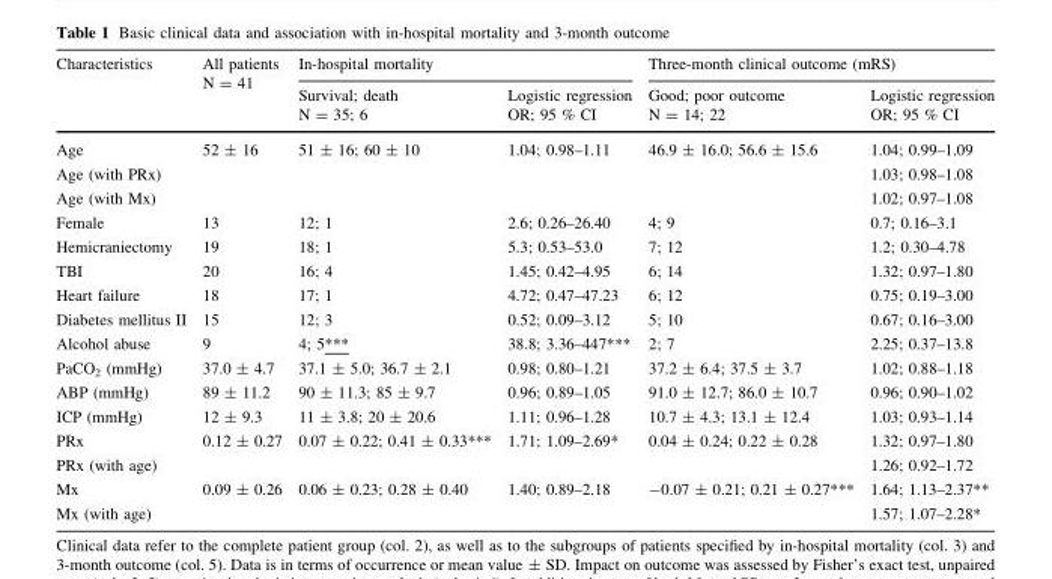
<table><thead><tr><td rowspan="2">Characteristics</td><td rowspan="2">All patients N = 41</td><td colspan="2">In-hospital mortality</td><td colspan="2">Three-month clinical outcome (mRS)</td></tr><tr><td>Survival; death N = 35; 6</td><td>Logistic regression OR; 95 % CI</td><td>Good; poor outcome N = 14; 22</td><td>Logistic regression OR; 95 % CI</td></tr></thead><tbody><tr><td>Age</td><td>52 ± 16</td><td>51 ± 16; 60 ± 10</td><td>1.04; 0.98–1.11</td><td>46.9 ± 16.0; 56.6 ± 15.6</td><td>1.04; 0.99–1.09</td></tr><tr><td>Age (with PRx)</td><td></td><td></td><td></td><td></td><td>1.03; 0.98–1.08</td></tr><tr><td>Age (with Mx)</td><td></td><td></td><td></td><td></td><td>1.02; 0.97–1.08</td></tr><tr><td>Female</td><td>13</td><td>12; 1</td><td>2.6; 0.26–26.40</td><td>4; 9</td><td>0.7; 0.16–3.1</td></tr><tr><td>Hemicraniectomy</td><td>19</td><td>18; 1</td><td>5.3; 0.53–53.0</td><td>7; 12</td><td>1.2; 0.30–4.78</td></tr><tr><td>TBI</td><td>20</td><td>16; 4</td><td>1.45; 0.42–4.95</td><td>6; 14</td><td>1.32; 0.97–1.80</td></tr><tr><td>Heart failure</td><td>18</td><td>17; 1</td><td>4.72; 0.47–47.23</td><td>6; 12</td><td>0.75; 0.19–3.00</td></tr><tr><td>Diabetes mellitus II</td><td>15</td><td>12; 3</td><td>0.52; 0.09–3.12</td><td>5; 10</td><td>0.67; 0.16–3.00</td></tr><tr><td>Alcohol abuse</td><td>9</td><td>4; 5***</td><td>38.8; 3.36–447***</td><td>2; 7</td><td>2.25; 0.37–13.8</td></tr><tr><td>PaCO<sub>2</sub> (mmHg)</td><td>37.0 ± 4.7</td><td>37.1 ± 5.0; 36.7 ± 2.1</td><td>0.98; 0.80–1.21</td><td>37.2 ± 6.4; 37.5 ± 3.7</td><td>1.02; 0.88–1.18</td></tr><tr><td>ABP (mmHg)</td><td>89 ± 11.2</td><td>90 ± 11.3; 85 ± 9.7</td><td>0.96; 0.89–1.05</td><td>91.0 ± 12.7; 86.0 ± 10.7</td><td>0.96; 0.90–1.02</td></tr><tr><td>ICP (mmHg)</td><td>12 ± 9.3</td><td>11 ± 3.8; 20 ± 20.6</td><td>1.11; 0.96–1.28</td><td>10.7 ± 4.3; 13.1 ± 12.4</td><td>1.03; 0.93–1.14</td></tr><tr><td>PRx</td><td>0.12 ± 0.27</td><td>0.07 ± 0.22; 0.41 ± 0.33***</td><td>1.71; 1.09–2.69*</td><td>0.04 ± 0.24; 0.22 ± 0.28</td><td>1.32; 0.97–1.80</td></tr><tr><td>PRx (with age)</td><td></td><td></td><td></td><td></td><td>1.26; 0.92–1.72</td></tr><tr><td>Mx</td><td>0.09 ± 0.26</td><td>0.06 ± 0.23; 0.28 ± 0.40</td><td>1.40; 0.89–2.18</td><td>-0.07 ± 0.21; 0.21 ± 0.27***</td><td>1.64; 1.13–2.37**</td></tr><tr><td>Mx (with age)</td><td></td><td></td><td></td><td></td><td>1.57; 1.07–2.28*</td></tr></tbody></table>